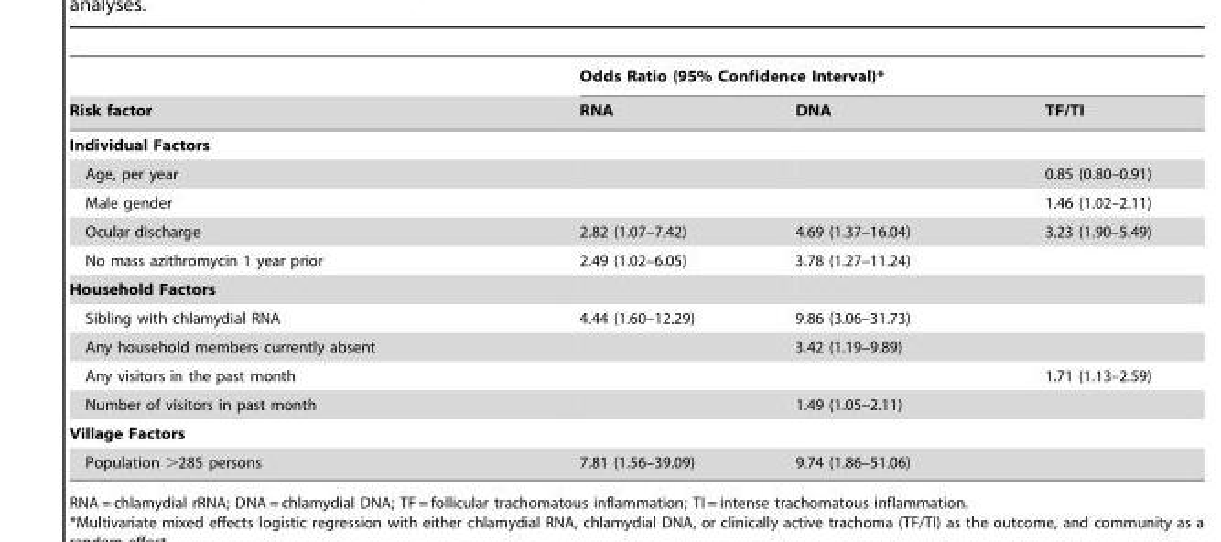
<table><thead><tr><td rowspan="2">Risk factor</td><td colspan="3">Odds Ratio (95% Confidence Interval)*</td></tr><tr><td>RNA</td><td>DNA</td><td>TF/TI</td></tr></thead><tbody><tr><td colspan="4">Individual Factors</td></tr><tr><td>Age, per year</td><td></td><td></td><td>0.85 (0.80–0.91)</td></tr><tr><td>Male gender</td><td></td><td></td><td>1.46 (1.02–2.11)</td></tr><tr><td>Ocular discharge</td><td>2.82 (1.07–7.42)</td><td>4.69 (1.37–16.04)</td><td>3.23 (1.90–5.49)</td></tr><tr><td>No mass azithromycin 1 year prior</td><td>2.49 (1.02–6.05)</td><td>3.78 (1.27–11.24)</td><td></td></tr><tr><td colspan="4">Household Factors</td></tr><tr><td>Sibling with chlamydial RNA</td><td>4.44 (1.60–12.29)</td><td>9.86 (3.06–31.73)</td><td></td></tr><tr><td>Any household members currently absent</td><td></td><td>3.42 (1.19–9.89)</td><td></td></tr><tr><td>Any visitors in the past month</td><td></td><td></td><td>1.71 (1.13–2.59)</td></tr><tr><td>Number of visitors in past month</td><td></td><td>1.49 (1.05–2.11)</td><td></td></tr><tr><td colspan="4">Village Factors</td></tr><tr><td>Population &gt;285 persons</td><td>7.81 (1.56–39.09)</td><td>9.74 (1.86–51.06)</td><td></td></tr></tbody></table>